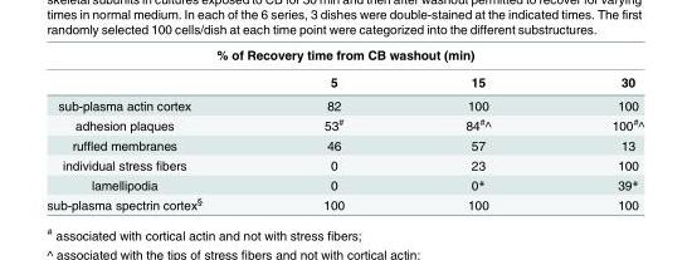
<table><thead><tr><td colspan="4">% of Recovery time from CB washout (min)</td></tr><tr><td></td><td>5</td><td>15</td><td>30</td></tr></thead><tbody><tr><td>sub-plasma actin cortex</td><td>82</td><td>100</td><td>100</td></tr><tr><td>adhesion plaques</td><td>53<sup>#</sup></td><td>84#^</td><td>100#^</td></tr><tr><td>ruffled membranes</td><td>46</td><td>57</td><td>13</td></tr><tr><td>individual stress fibers</td><td>0</td><td>23</td><td>100</td></tr><tr><td>lamellipodia</td><td>0</td><td>0*</td><td>39*</td></tr><tr><td>sub-plasma spectrin cortex<sup>§</sup></td><td>100</td><td>100</td><td>100</td></tr></tbody></table>